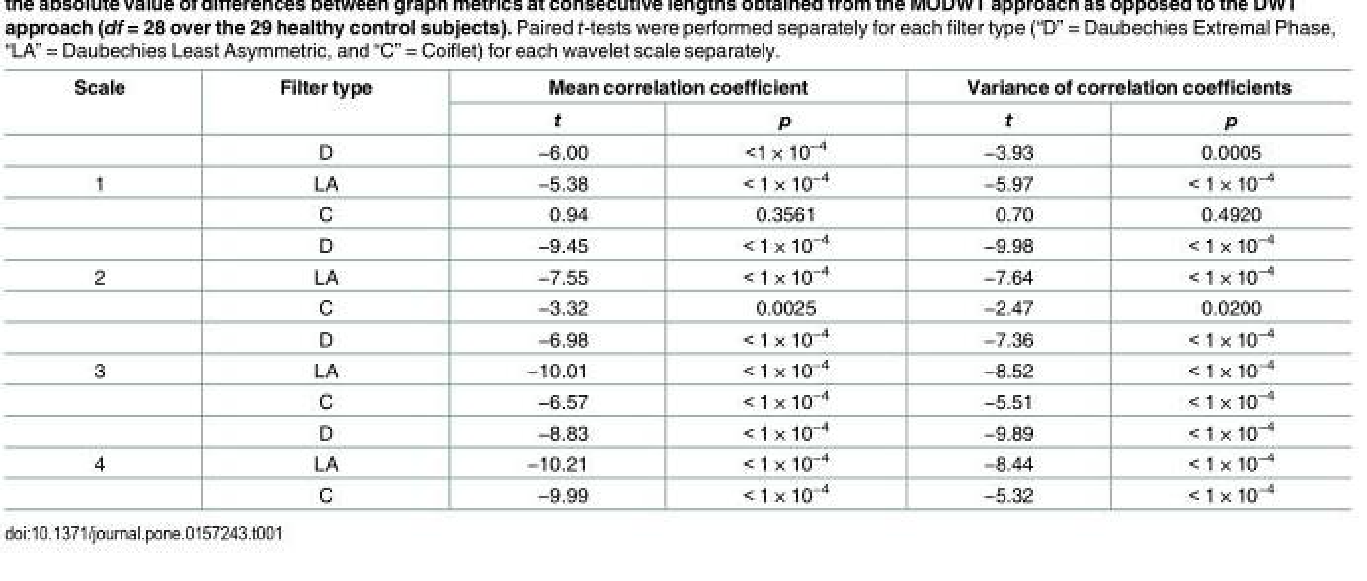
<table><thead><tr><td rowspan="2">Scale</td><td rowspan="2">Filter type</td><td colspan="2">Mean correlation coefficient</td><td colspan="2">Variance of correlation coefficients</td></tr><tr><td>t</td><td>p</td><td>t</td><td>p</td></tr></thead><tbody><tr><td></td><td>D</td><td>−6.00</td><td>&lt;1 × 10<sup>−4</sup></td><td>−3.93</td><td>0.0005</td></tr><tr><td rowspan="3">1</td><td>LA</td><td>−5.38</td><td>&lt; 1 × 10<sup>−4</sup></td><td>−5.97</td><td>&lt; 1 × 10<sup>−4</sup></td></tr><tr><td>C</td><td>0.94</td><td>0.3561</td><td>0.70</td><td>0.4920</td></tr><tr><td>D</td><td>−9.45</td><td>&lt; 1 × 10<sup>−4</sup></td><td>−9.98</td><td>&lt; 1 × 10<sup>−4</sup></td></tr><tr><td rowspan="3">2</td><td>LA</td><td>−7.55</td><td>&lt; 1 × 10<sup>−4</sup></td><td>−7.64</td><td>&lt; 1 × 10<sup>−4</sup></td></tr><tr><td>C</td><td>−3.32</td><td>0.0025</td><td>−2.47</td><td>0.0200</td></tr><tr><td>D</td><td>−6.98</td><td>&lt; 1 × 10<sup>−4</sup></td><td>−7.36</td><td>&lt; 1 × 10<sup>−4</sup></td></tr><tr><td rowspan="3">3</td><td>LA</td><td>−10.01</td><td>&lt; 1 × 10<sup>−4</sup></td><td>−8.52</td><td>&lt; 1 × 10<sup>−4</sup></td></tr><tr><td>C</td><td>−6.57</td><td>&lt; 1 × 10<sup>−4</sup></td><td>−5.51</td><td>&lt; 1 × 10<sup>−4</sup></td></tr><tr><td>D</td><td>−8.83</td><td>&lt; 1 × 10<sup>−4</sup></td><td>−9.89</td><td>&lt; 1 × 10<sup>−4</sup></td></tr><tr><td rowspan="2">4</td><td>LA</td><td>−10.21</td><td>&lt; 1 × 10<sup>−4</sup></td><td>−8.44</td><td>&lt; 1 × 10<sup>−4</sup></td></tr><tr><td>C</td><td>−9.99</td><td>&lt; 1 × 10<sup>−4</sup></td><td>−5.32</td><td>&lt; 1 × 10<sup>−4</sup></td></tr></tbody></table>